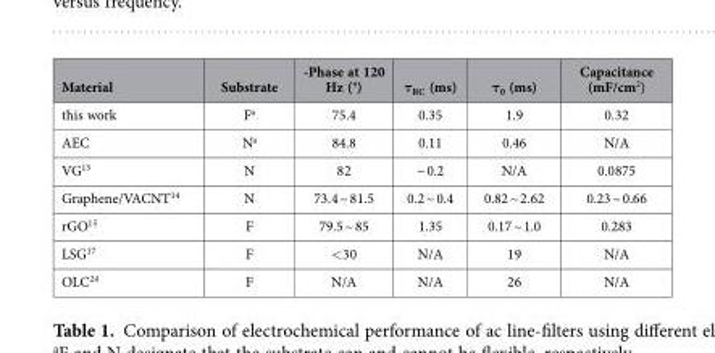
<table><thead><tr><td>Material</td><td>Substrate</td><td>-Phase at 120 Hz (°)</td><td>τ<sub>RC</sub> (ms)</td><td>τ<sub>0</sub> (ms)</td><td>Capacitance (mF/cm<sup>2</sup>)</td></tr></thead><tbody><tr><td>this work</td><td>F<sup>a</sup></td><td>75.4</td><td>0.35</td><td>1.9</td><td>0.32</td></tr><tr><td>AEC</td><td>N<sup>a</sup></td><td>84.8</td><td>0.11</td><td>0.46</td><td>N/A</td></tr><tr><td>VG<sup>13</sup></td><td>N</td><td>82</td><td>~ 0.2</td><td>N/A</td><td>0.0875</td></tr><tr><td>Graphene/VACNT<sup>14</sup></td><td>N</td><td>73.4 ~ 81.5</td><td>0.2 ~ 0.4</td><td>0.82 ~ 2.62</td><td>0.23 ~ 0.66</td></tr><tr><td>rGO<sup>15</sup></td><td>F</td><td>79.5 ~ 85</td><td>1.35</td><td>0.17 ~ 1.0</td><td>0.283</td></tr><tr><td>LSG<sup>17</sup></td><td>F</td><td>&lt;30</td><td>N/A</td><td>19</td><td>N/A</td></tr><tr><td>OLC<sup>24</sup></td><td>F</td><td>N/A</td><td>N/A</td><td>26</td><td>N/A</td></tr></tbody></table>